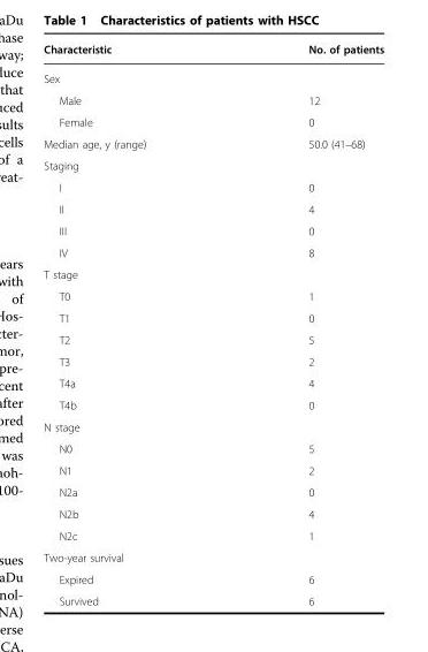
<table><thead><tr><td>Characteristic</td><td>No. of patients</td></tr></thead><tbody><tr><td colspan="2">Sex</td></tr><tr><td>Male</td><td>12</td></tr><tr><td>Female</td><td>0</td></tr><tr><td>Median age, y (range)</td><td>50.0 (41–68)</td></tr><tr><td colspan="2">Staging</td></tr><tr><td>I</td><td>0</td></tr><tr><td>II</td><td>4</td></tr><tr><td>III</td><td>0</td></tr><tr><td>IV</td><td>8</td></tr><tr><td colspan="2">T stage</td></tr><tr><td>T0</td><td>1</td></tr><tr><td>T1</td><td>0</td></tr><tr><td>T2</td><td>5</td></tr><tr><td>T3</td><td>2</td></tr><tr><td>T4a</td><td>4</td></tr><tr><td>T4b</td><td>0</td></tr><tr><td colspan="2">N stage</td></tr><tr><td>N0</td><td>5</td></tr><tr><td>N1</td><td>2</td></tr><tr><td>N2a</td><td>0</td></tr><tr><td>N2b</td><td>4</td></tr><tr><td>N2c</td><td>1</td></tr><tr><td colspan="2">Two-year survival</td></tr><tr><td>Expired</td><td>6</td></tr><tr><td>Survived</td><td>6</td></tr></tbody></table>